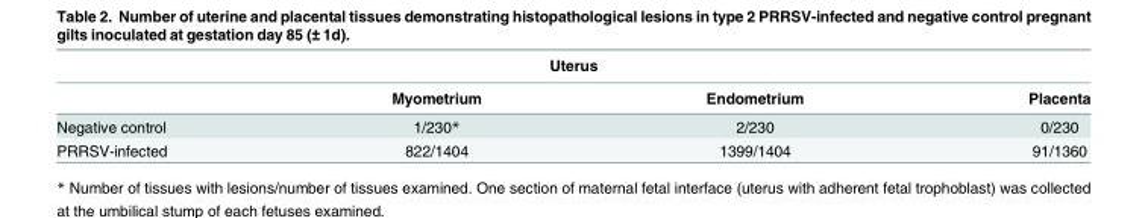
<table><thead><tr><td colspan="4">Uterus</td></tr><tr><td></td><td>Myometrium</td><td>Endometrium</td><td>Placenta</td></tr></thead><tbody><tr><td>Negative control</td><td>1/230*</td><td>2/230</td><td>0/230</td></tr><tr><td>PRRSV-infected</td><td>822/1404</td><td>1399/1404</td><td>91/1360</td></tr></tbody></table>